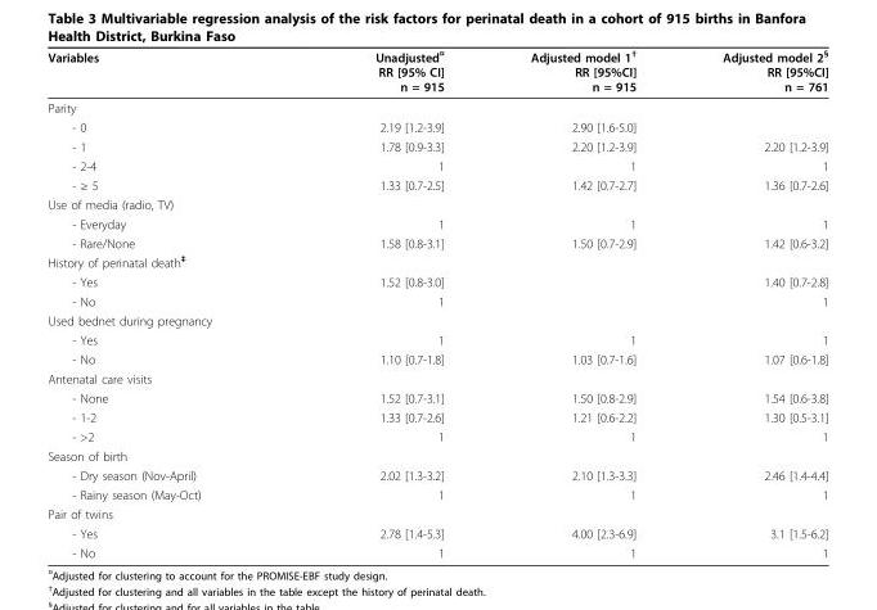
<table><thead><tr><td>Variables</td><td>Unadjusted<sup>¤</sup> RR [95% CI] n = 915</td><td>Adjusted model 1<sup>†</sup> RR [95%CI] n = 915</td><td>Adjusted model 2<sup>§</sup> RR [95%CI] n = 761</td></tr></thead><tbody><tr><td colspan="4">Parity</td></tr><tr><td>- 0</td><td>2.19 [1.2-3.9]</td><td>2.90 [1.6-5.0]</td><td></td></tr><tr><td>- 1</td><td>1.78 [0.9-3.3]</td><td>2.20 [1.2-3.9]</td><td>2.20 [1.2-3.9]</td></tr><tr><td>- 2-4</td><td>1</td><td>1</td><td>1</td></tr><tr><td>- ≥ 5</td><td>1.33 [0.7-2.5]</td><td>1.42 [0.7-2.7]</td><td>1.36 [0.7-2.6]</td></tr><tr><td colspan="4">Use of media (radio, TV)</td></tr><tr><td>- Everyday</td><td>1</td><td>1</td><td>1</td></tr><tr><td>- Rare/None</td><td>1.58 [0.8-3.1]</td><td>1.50 [0.7-2.9]</td><td>1.42 [0.6-3.2]</td></tr><tr><td colspan="4">History of perinatal death<sup>‡</sup></td></tr><tr><td>- Yes</td><td>1.52 [0.8-3.0]</td><td></td><td>1.40 [0.7-2.8]</td></tr><tr><td>- No</td><td>1</td><td></td><td>1</td></tr><tr><td colspan="4">Used bednet during pregnancy</td></tr><tr><td>- Yes</td><td>1</td><td>1</td><td>1</td></tr><tr><td>- No</td><td>1.10 [0.7-1.8]</td><td>1.03 [0.7-1.6]</td><td>1.07 [0.6-1.8]</td></tr><tr><td colspan="4">Antenatal care visits</td></tr><tr><td>- None</td><td>1.52 [0.7-3.1]</td><td>1.50 [0.8-2.9]</td><td>1.54 [0.6-3.8]</td></tr><tr><td>- 1-2</td><td>1.33 [0.7-2.6]</td><td>1.21 [0.6-2.2]</td><td>1.30 [0.5-3.1]</td></tr><tr><td>- &gt;2</td><td>1</td><td>1</td><td>1</td></tr><tr><td colspan="4">Season of birth</td></tr><tr><td>- Dry season (Nov-April)</td><td>2.02 [1.3-3.2]</td><td>2.10 [1.3-3.3]</td><td>2.46 [1.4-4.4]</td></tr><tr><td>- Rainy season (May-Oct)</td><td>1</td><td>1</td><td>1</td></tr><tr><td colspan="4">Pair of twins</td></tr><tr><td>- Yes</td><td>2.78 [1.4-5.3]</td><td>4.00 [2.3-6.9]</td><td>3.1 [1.5-6.2]</td></tr><tr><td>- No</td><td>1</td><td>1</td><td>1</td></tr></tbody></table>